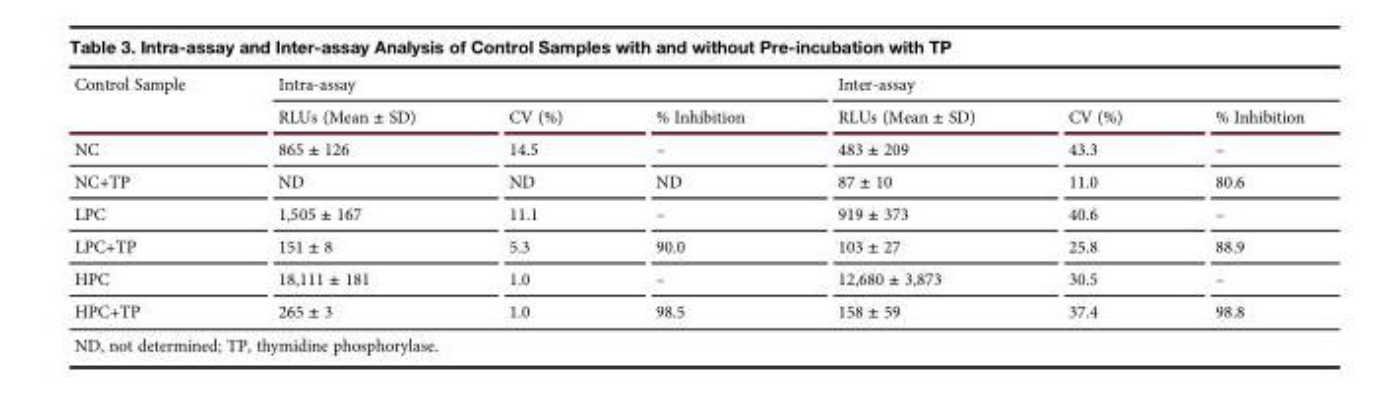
<table><thead><tr><td rowspan="2">Control Sample</td><td colspan="3">Intra-assay</td><td colspan="3">Inter-assay</td></tr><tr><td>RLUs (Mean ± SD)</td><td>CV (%)</td><td>% Inhibition</td><td>RLUs (Mean ± SD)</td><td>CV (%)</td><td>% Inhibition</td></tr></thead><tbody><tr><td>NC</td><td>865 ± 126</td><td>14.5</td><td>–</td><td>483 ± 209</td><td>43.3</td><td>–</td></tr><tr><td>NC+TP</td><td>ND</td><td>ND</td><td>ND</td><td>87 ± 10</td><td>11.0</td><td>80.6</td></tr><tr><td>LPC</td><td>1,505 ± 167</td><td>11.1</td><td>–</td><td>919 ± 373</td><td>40.6</td><td>–</td></tr><tr><td>LPC+TP</td><td>151 ± 8</td><td>5.3</td><td>90.0</td><td>103 ± 27</td><td>25.8</td><td>88.9</td></tr><tr><td>HPC</td><td>18,111 ± 181</td><td>1.0</td><td>–</td><td>12,680 ± 3,873</td><td>30.5</td><td>–</td></tr><tr><td>HPC+TP</td><td>265 ± 3</td><td>1.0</td><td>98.5</td><td>158 ± 59</td><td>37.4</td><td>98.8</td></tr></tbody></table>